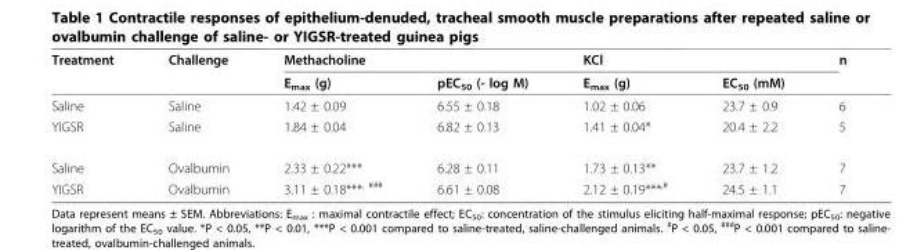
<table><thead><tr><td rowspan="2">Treatment</td><td rowspan="2">Challenge</td><td colspan="2">Methacholine</td><td colspan="2">KCl</td><td rowspan="2">n</td></tr><tr><td>E<sub>max</sub> (g)</td><td>pEC<sub>50</sub> (- log M)</td><td>E<sub>max</sub> (g)</td><td>EC<sub>50</sub> (mM)</td></tr></thead><tbody><tr><td>Saline</td><td>Saline</td><td>1.42 ± 0.09</td><td>6.55 ± 0.18</td><td>1.02 ± 0.06</td><td>23.7 ± 0.9</td><td>6</td></tr><tr><td>YIGSR</td><td>Saline</td><td>1.84 ± 0.04</td><td>6.82 ± 0.13</td><td>1.41 ± 0.04*</td><td>20.4 ± 2.2</td><td>5</td></tr><tr><td>Saline</td><td>Ovalbumin</td><td>2.33 ± 0.22***</td><td>6.28 ± 0.11</td><td>1.73 ± 0.13**</td><td>23.7 ± 1.2</td><td>7</td></tr><tr><td>YIGSR</td><td>Ovalbumin</td><td>3.11 ± 0.18***<sup>, ###</sup></td><td>6.61 ± 0.08</td><td>2.12 ± 0.19***<sup>,#</sup></td><td>24.5 ± 1.1</td><td>7</td></tr></tbody></table>